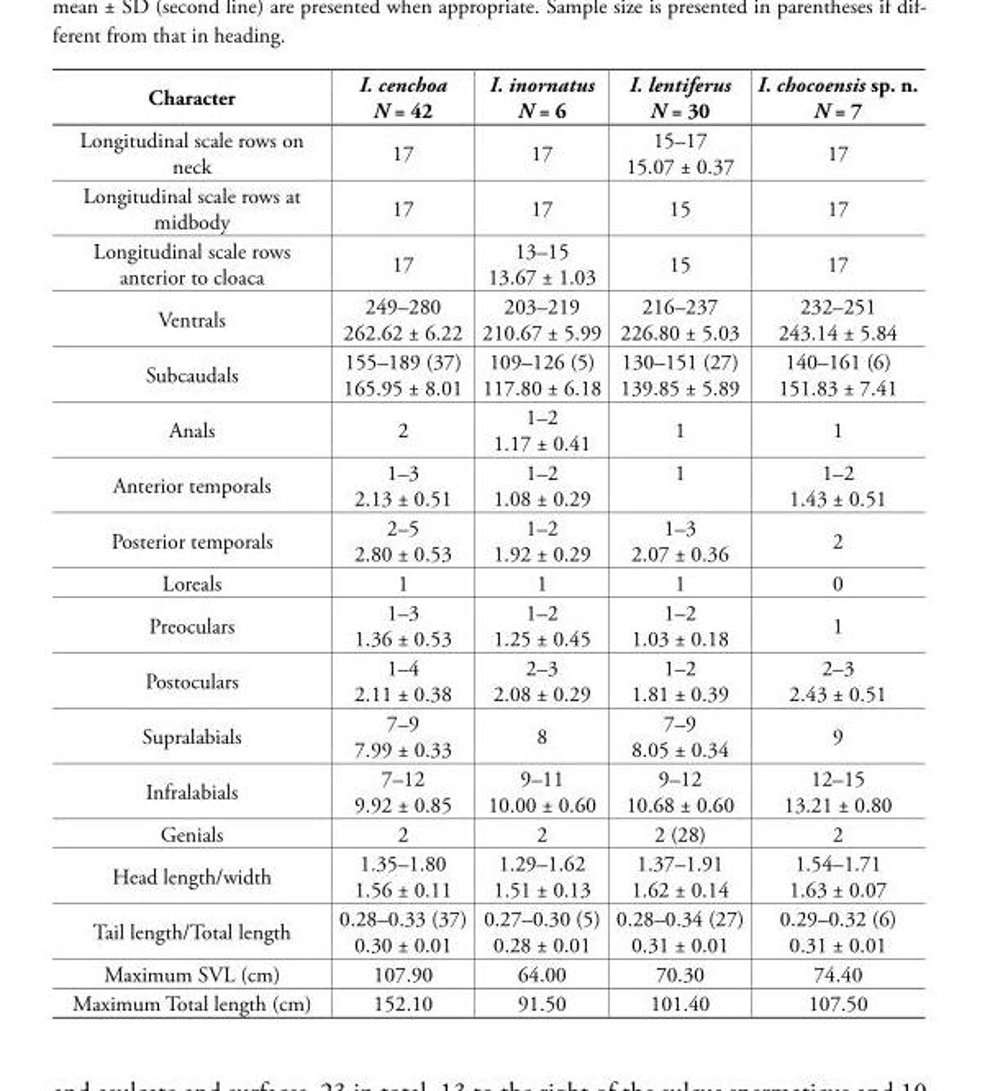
<table><thead><tr><td>Character</td><td>I. cenchoa N = 42</td><td>I. inornatus N = 6</td><td>I. lentiferus N = 30</td><td>I. chocoensis sp. n. N = 7</td></tr></thead><tbody><tr><td>Longitudinal scale rows on neck</td><td>17</td><td>17</td><td>15–17 15.07 ± 0.37</td><td>17</td></tr><tr><td>Longitudinal scale rows at midbody</td><td>17</td><td>17</td><td>15</td><td>17</td></tr><tr><td>Longitudinal scale rows anterior to cloaca</td><td>17</td><td>13–15 13.67 ± 1.03</td><td>15</td><td>17</td></tr><tr><td>Ventrals</td><td>249–280 262.62 ± 6.22</td><td>203–219 210.67 ± 5.99</td><td>216–237 226.80 ± 5.03</td><td>232–251 243.14 ± 5.84</td></tr><tr><td>Subcaudals</td><td>155–189 (37) 165.95 ± 8.01</td><td>109–126 (5) 117.80 ± 6.18</td><td>130–151 (27) 139.85 ± 5.89</td><td>140–161 (6) 151.83 ± 7.41</td></tr><tr><td>Anals</td><td>2</td><td>1–2 1.17 ± 0.41</td><td>1</td><td>1</td></tr><tr><td>Anterior temporals</td><td>1–3 2.13 ± 0.51</td><td>1 –2 1.08 ± 0.29</td><td>1</td><td>1–2 1.43 ± 0.51</td></tr><tr><td>Posterior temporals</td><td>2–5 2.80 ± 0.53</td><td>1 –2 1.92 ± 0.29</td><td>1–3 2.07 ± 0.36</td><td>2</td></tr><tr><td>Loreals</td><td>1</td><td>1</td><td>1</td><td>0</td></tr><tr><td>Preoculars</td><td>1–3 1.36 ± 0.53</td><td>1–2 1.25 ± 0.45</td><td>1–2 1.03 ± 0.18</td><td>1</td></tr><tr><td>Postoculars</td><td>1–4 2.11 ± 0.38</td><td>2–3 2.08 ± 0.29</td><td>1–2 1.81 ± 0.39</td><td>2–3 2.43 ± 0.51</td></tr><tr><td>Supralabials</td><td>7–9 7.99 ± 0.33</td><td>8</td><td>7–9 8.05 ± 0.34</td><td>9</td></tr><tr><td>Infralabials</td><td>7–12 9.92 ± 0.85</td><td>9–11 10.00 ± 0.60</td><td>9–12 10.68 ± 0.60</td><td>12–15 13.21 ± 0.80</td></tr><tr><td>Genials</td><td>2</td><td>2</td><td>2 (28)</td><td>2</td></tr><tr><td>Head length/width</td><td>1.35–1.80 1.56 ± 0.11</td><td>1.29–1.62 1.51 ± 0.13</td><td>1.37–1.91 1.62 ± 0.14</td><td>1.54–1.71 1.63 ± 0.07</td></tr><tr><td>Tail length/Total length</td><td>0.28–0.33 (37) 0.30 ± 0.01</td><td>0.27–0.30 (5) 0.28 ± 0.01</td><td>0.28–0.34 (27) 0.31 ± 0.01</td><td>0.29–0.32 (6) 0.31 ± 0.01</td></tr><tr><td>Maximum SVL (cm)</td><td>107.90</td><td>64.00</td><td>70.30</td><td>74.40</td></tr><tr><td>Maximum Total length (cm)</td><td>152.10</td><td>91.50</td><td>101.40</td><td>107.50</td></tr></tbody></table>